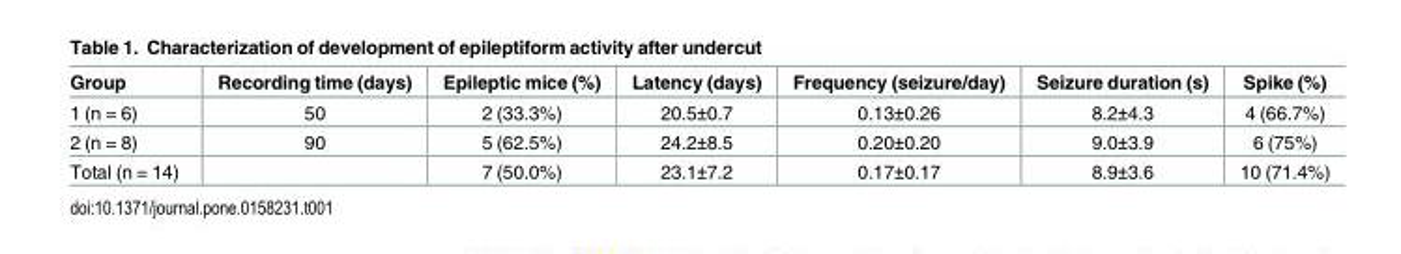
<table><thead><tr><td>Group</td><td>Recording time (days)</td><td>Epileptic mice (%)</td><td>Latency (days)</td><td>Frequency (seizure/day)</td><td>Seizure duration (s)</td><td>Spike (%)</td></tr></thead><tbody><tr><td>1 (n = 6)</td><td>50</td><td>2 (33.3%)</td><td>20.5±0.7</td><td>0.13±0.26</td><td>8.2±4.3</td><td>4 (66.7%)</td></tr><tr><td>2 (n = 8)</td><td>90</td><td>5 (62.5%)</td><td>24.2±8.5</td><td>0.20±0.20</td><td>9.0±3.9</td><td>6 (75%)</td></tr><tr><td>Total (n = 14)</td><td></td><td>7 (50.0%)</td><td>23.1±7.2</td><td>0.17±0.17</td><td>8.9±3.6</td><td>10 (71.4%)</td></tr></tbody></table>